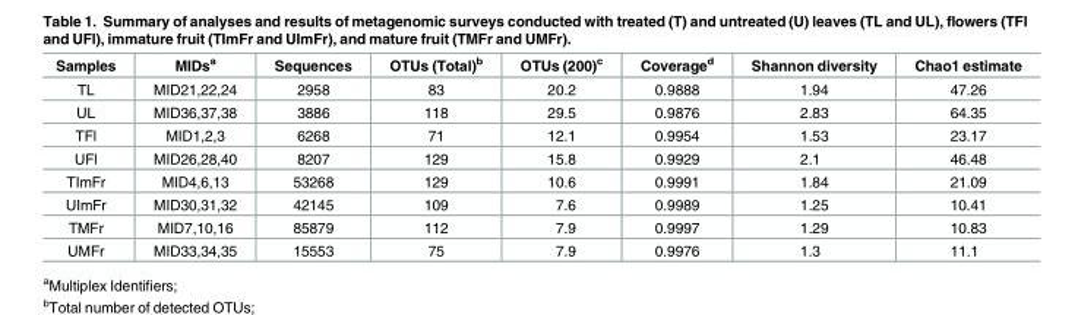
<table><thead><tr><td>Samples</td><td>MIDs<sup>a</sup></td><td>Sequences</td><td>OTUs (Total)<sup>b</sup></td><td>OTUs (200)<sup>c</sup></td><td>Coverage<sup>d</sup></td><td>Shannon diversity</td><td>Chao1 estimate</td></tr></thead><tbody><tr><td>TL</td><td>MID21,22,24</td><td>2958</td><td>83</td><td>20.2</td><td>0.9888</td><td>1.94</td><td>47.26</td></tr><tr><td>UL</td><td>MID36,37,38</td><td>3886</td><td>118</td><td>29.5</td><td>0.9876</td><td>2.83</td><td>64.35</td></tr><tr><td>TFl</td><td>MID1,2,3</td><td>6268</td><td>71</td><td>12.1</td><td>0.9954</td><td>1.53</td><td>23.17</td></tr><tr><td>UFl</td><td>MID26,28,40</td><td>8207</td><td>129</td><td>15.8</td><td>0.9929</td><td>2.1</td><td>46.48</td></tr><tr><td>TImFr</td><td>MID4,6,13</td><td>53268</td><td>129</td><td>10.6</td><td>0.9991</td><td>1.84</td><td>21.09</td></tr><tr><td>UImFr</td><td>MID30,31,32</td><td>42145</td><td>109</td><td>7.6</td><td>0.9989</td><td>1.25</td><td>10.41</td></tr><tr><td>TMFr</td><td>MID7,10,16</td><td>85879</td><td>112</td><td>7.9</td><td>0.9997</td><td>1.29</td><td>10.83</td></tr><tr><td>UMFr</td><td>MID33,34,35</td><td>15553</td><td>75</td><td>7.9</td><td>0.9976</td><td>1.3</td><td>11.1</td></tr></tbody></table>